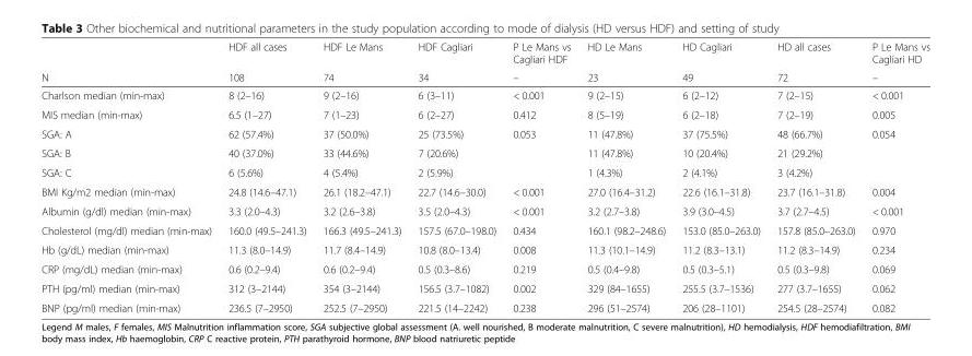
<table><thead><tr><td rowspan="2">N</td><td rowspan="2">HDF all cases 108</td><td rowspan="2">HDF Le Mans 74</td><td rowspan="2">HDF Cagliari 34</td><td rowspan="2">P Le Mans vs Cagliari HDF –</td><td rowspan="2">HD Le Mans 23</td><td rowspan="2">HD Cagliari 49</td><td rowspan="2">HD all cases 72</td><td rowspan="2">P Le Mans vs Cagliari HD –</td></tr><tr></tr></thead><tbody><tr><td>Charlson median (min-max)</td><td>8 (2–16)</td><td>9 (2–16)</td><td>6 (3–11)</td><td>&lt; 0.001</td><td>9 (2–15)</td><td>6 (2–12)</td><td>7 (2–15)</td><td>&lt; 0.001</td></tr><tr><td>MIS median (min-max)</td><td>6.5 (1–27)</td><td>7 (1–23)</td><td>6 (2–27)</td><td>0.412</td><td>8 (5–19)</td><td>6 (2–18)</td><td>7 (2–19)</td><td>0.005</td></tr><tr><td>SGA: A</td><td>62 (57.4%)</td><td>37 (50.0%)</td><td>25 (73.5%)</td><td rowspan="3">0.053</td><td>11 (47.8%)</td><td>37 (75.5%)</td><td>48 (66.7%)</td><td rowspan="3">0.054</td></tr><tr><td>SGA: B</td><td>40 (37.0%)</td><td>33 (44.6%)</td><td>7 (20.6%)</td><td>11 (47.8%)</td><td>10 (20.4%)</td><td>21 (29.2%)</td></tr><tr><td>SGA: C</td><td>6 (5.6%)</td><td>4 (5.4%)</td><td>2 (5.9%)</td><td>1 (4.3%)</td><td>2 (4.1%)</td><td>3 (4.2%)</td></tr><tr><td>BMI Kg/m2 median (min-max)</td><td>24.8 (14.6–47.1)</td><td>26.1 (18.2–47.1)</td><td>22.7 (14.6–30.0)</td><td>&lt; 0.001</td><td>27.0 (16.4–31.2)</td><td>22.6 (16.1–31.8)</td><td>23.7 (16.1–31.8)</td><td>0.004</td></tr><tr><td>Albumin (g/dl) median (min-max)</td><td>3.3 (2.0–4.3)</td><td>3.2 (2.6–3.8)</td><td>3.5 (2.0–4.3)</td><td>&lt; 0.001</td><td>3.2 (2.7–3.8)</td><td>3.9 (3.0–4.5)</td><td>3.7 (2.7–4.5)</td><td>&lt; 0.001</td></tr><tr><td>Cholesterol (mg/dl) median (min-max)</td><td>160.0 (49.5–241.3)</td><td>166.3 (49.5–241.3)</td><td>157.5 (67.0–198.0)</td><td>0.434</td><td>160.1 (98.2–248.6)</td><td>153.0 (85.0–263.0)</td><td>157.8 (85.0–263.0)</td><td>0.970</td></tr><tr><td>Hb (g/dL) median (min-max)</td><td>11.3 (8.0–14.9)</td><td>11.7 (8.4–14.9)</td><td>10.8 (8.0–13.4)</td><td>0.008</td><td>11.3 (10.1–14.9)</td><td>11.2 (8.3–13.1)</td><td>11.2 (8.3–14.9)</td><td>0.234</td></tr><tr><td>CRP (mg/dL) median (min-max)</td><td>0.6 (0.2–9.4)</td><td>0.6 (0.2–9.4)</td><td>0.5 (0.3–8.6)</td><td>0.219</td><td>0.5 (0.4–9.8)</td><td>0.5 (0.3–5.1)</td><td>0.5 (0.3–9.8)</td><td>0.069</td></tr><tr><td>PTH (pg/ml) median (min-max)</td><td>312 (3–2144)</td><td>354 (3–2144)</td><td>156.5 (3.7–1082)</td><td>0.002</td><td>329 (84–1655)</td><td>255.5 (3.7–1536)</td><td>277 (3.7–1655)</td><td>0.062</td></tr><tr><td>BNP (pg/ml) median (min-max)</td><td>236.5 (7–2950)</td><td>252.5 (7–2950)</td><td>221.5 (14–2242)</td><td>0.238</td><td>296 (51–2574)</td><td>206 (28–1101)</td><td>254.5 (28–2574)</td><td>0.082</td></tr></tbody></table>